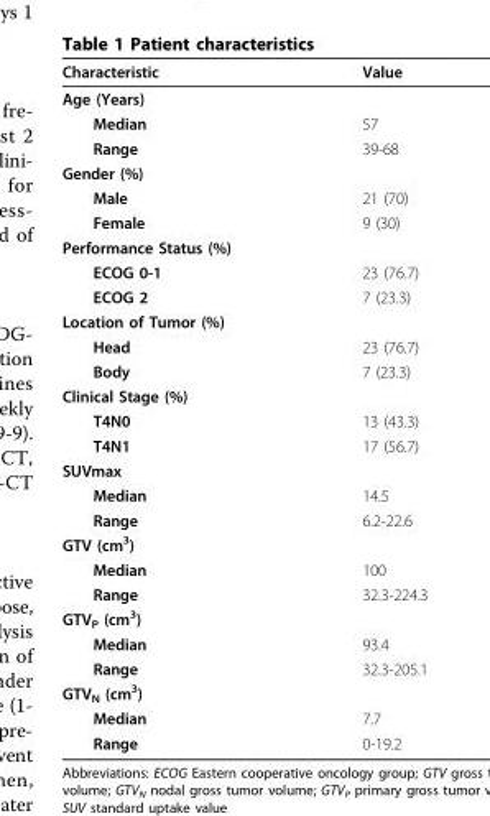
<table><thead><tr><td>Characteristic</td><td>Value</td></tr></thead><tbody><tr><td colspan="2">Age (Years)</td></tr><tr><td>Median</td><td>57</td></tr><tr><td>Range</td><td>39-68</td></tr><tr><td colspan="2">Gender (%)</td></tr><tr><td>Male</td><td>21 (70)</td></tr><tr><td>Female</td><td>9 (30)</td></tr><tr><td colspan="2">Performance Status (%)</td></tr><tr><td>ECOG 0-1</td><td>23 (76.7)</td></tr><tr><td>ECOG 2</td><td>7 (23.3)</td></tr><tr><td colspan="2">Location of Tumor (%)</td></tr><tr><td>Head</td><td>23 (76.7)</td></tr><tr><td>Body</td><td>7 (23.3)</td></tr><tr><td colspan="2">Clinical Stage (%)</td></tr><tr><td>T4N0</td><td>13 (43.3)</td></tr><tr><td>T4N1</td><td>17 (56.7)</td></tr><tr><td colspan="2">SUVmax</td></tr><tr><td>Median</td><td>14.5</td></tr><tr><td>Range</td><td>6.2-22.6</td></tr><tr><td colspan="2">GTV (cm<sup>3</sup>)</td></tr><tr><td>Median</td><td>100</td></tr><tr><td>Range</td><td>32.3-224.3</td></tr><tr><td colspan="2">GTV<sub>P</sub> (cm<sup>3</sup>)</td></tr><tr><td>Median</td><td>93.4</td></tr><tr><td>Range</td><td>32.3-205.1</td></tr><tr><td colspan="2">GTV<sub>N</sub> (cm<sup>3</sup>)</td></tr><tr><td>Median</td><td>7.7</td></tr><tr><td>Range</td><td>0-19.2</td></tr></tbody></table>